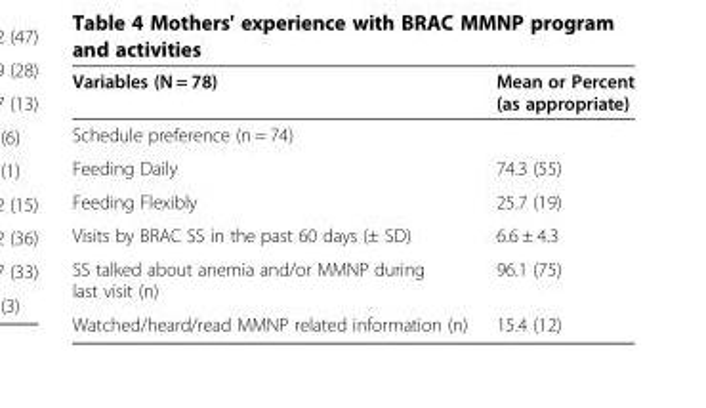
<table><thead><tr><td>Variables (N = 78)</td><td>Mean or Percent (as appropriate)</td></tr></thead><tbody><tr><td colspan="2">Schedule preference (n = 74)</td></tr><tr><td>Feeding Daily</td><td>74.3 (55)</td></tr><tr><td>Feeding Flexibly</td><td>25.7 (19)</td></tr><tr><td>Visits by BRAC SS in the past 60 days (± SD)</td><td>6.6 ± 4.3</td></tr><tr><td>SS talked about anemia and/or MMNP during last visit (n)</td><td>96.1 (75)</td></tr><tr><td>Watched/heard/read MMNP related information (n)</td><td>15.4 (12)</td></tr></tbody></table>